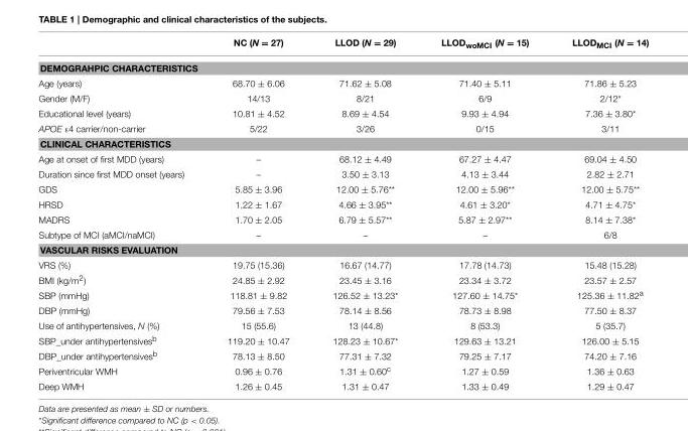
<table><thead><tr><td></td><td>NC (N = 27)</td><td>LLOD (N = 29)</td><td>LLOD<sub>woMCI</sub> (N = 15)</td><td>LLOD<sub>MCI</sub> (N = 14)</td></tr></thead><tbody><tr><td colspan="5">DEMOGRAHPIC CHARACTERISTICS</td></tr><tr><td>Age (years)</td><td>68.70 ± 6.06</td><td>71.62 ± 5.08</td><td>71.40 ± 5.11</td><td>71.86 ± 5.23</td></tr><tr><td>Gender (M/F)</td><td>14/13</td><td>8/21</td><td>6/9</td><td>2/12*</td></tr><tr><td>Educational level (years)</td><td>10.81 ± 4.52</td><td>8.69 ± 4.54</td><td>9.93 ± 4.94</td><td>7.36 ± 3.80*</td></tr><tr><td>APOE ε4 carrier/non-carrier</td><td>5/22</td><td>3/26</td><td>0/15</td><td>3/11</td></tr><tr><td colspan="5">CLINICAL CHARACTERISTICS</td></tr><tr><td>Age at onset of first MDD (years)</td><td>–</td><td>68.12 ± 4.49</td><td>67.27 ± 4.47</td><td>69.04 ± 4.50</td></tr><tr><td>Duration since first MDD onset (years)</td><td>–</td><td>3.50 ± 3.13</td><td>4.13 ± 3.44</td><td>2.82 ± 2.71</td></tr><tr><td>GDS</td><td>5.85 ± 3.96</td><td>12.00 ± 5.76**</td><td>12.00 ± 5.96**</td><td>12.00 ± 5.75**</td></tr><tr><td>HRSD</td><td>1.22 ± 1.67</td><td>4.66 ± 3.95**</td><td>4.61 ± 3.20*</td><td>4.71 ± 4.75*</td></tr><tr><td>MADRS</td><td>1.70 ± 2.05</td><td>6.79 ± 5.57**</td><td>5.87 ± 2.97**</td><td>8.14 ± 7.38*</td></tr><tr><td>Subtype of MCI (aMCI/naMCI)</td><td>–</td><td>–</td><td>–</td><td>6/8</td></tr><tr><td colspan="5">VASCULAR RISKS EVALUATION</td></tr><tr><td>VRS (%)</td><td>19.75 (15.36)</td><td>16.67 (14.77)</td><td>17.78 (14.73)</td><td>15.48 (15.28)</td></tr><tr><td>BMI (kg/m<sup>2</sup>)</td><td>24.85 ± 2.92</td><td>23.45 ± 3.16</td><td>23.34 ± 3.72</td><td>23.57 ± 2.57</td></tr><tr><td>SBP (mmHg)</td><td>118.81 ± 9.82</td><td>126.52 ± 13.23*</td><td>127.60 ± 14.75*</td><td>125.36 ± 11.82<sup>a</sup></td></tr><tr><td>DBP (mmHg)</td><td>79.56 ± 7.53</td><td>78.14 ± 8.56</td><td>78.73 ± 8.98</td><td>77.50 ± 8.37</td></tr><tr><td>Use of antihypertensives, N (%)</td><td>15 (55.6)</td><td>13 (44.8)</td><td>8 (53.3)</td><td>5 (35.7)</td></tr><tr><td>SBP_under antihypertensives<sup>b</sup></td><td>119.20 ± 10.47</td><td>128.23 ± 10.67*</td><td>129.63 ± 13.21</td><td>126.00 ± 5.15</td></tr><tr><td>DBP_under antihypertensives<sup>b</sup></td><td>78.13 ± 8.50</td><td>77.31 ± 7.32</td><td>79.25 ± 7.17</td><td>74.20 ± 7.16</td></tr><tr><td>Periventricular WMH</td><td>0.96 ± 0.76</td><td>1.31 ± 0.60<sup>c</sup></td><td>1.27 ± 0.59</td><td>1.36 ± 0.63</td></tr><tr><td>Deep WMH</td><td>1.26 ± 0.45</td><td>1.31 ± 0.47</td><td>1.33 ± 0.49</td><td>1.29 ± 0.47</td></tr></tbody></table>